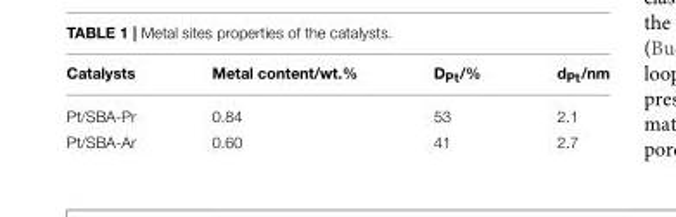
<table><thead><tr><td>Catalysts</td><td>Metal content/wt.%</td><td>D<sub>Pt</sub>/%</td><td>d<sub>Pt</sub>/nm</td></tr></thead><tbody><tr><td>Pt/SBA-Pr</td><td>0.84</td><td>53</td><td>2.1</td></tr><tr><td>Pt/SBA-Ar</td><td>0.60</td><td>41</td><td>2.7</td></tr></tbody></table>